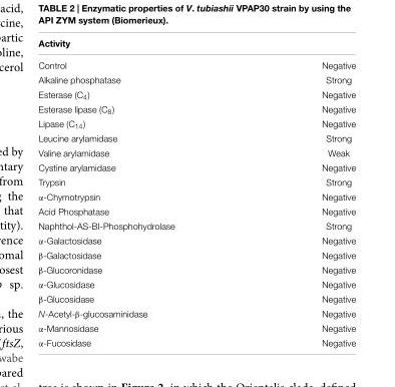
<table><thead><tr><td>Activity</td><td></td></tr></thead><tbody><tr><td>Control</td><td>Negative</td></tr><tr><td>Alkaline phosphatase</td><td>Strong</td></tr><tr><td>Esterase (C4)</td><td>Negative</td></tr><tr><td>Esterase lipase (C8)</td><td>Negative</td></tr><tr><td>Lipase (C14)</td><td>Negative</td></tr><tr><td>Leucine arylamidase</td><td>Strong</td></tr><tr><td>Valine arylamidase</td><td>Weak</td></tr><tr><td>Cystine arylamidase</td><td>Negative</td></tr><tr><td>Trypsin</td><td>Strong</td></tr><tr><td>α-Chymotrypsin</td><td>Negative</td></tr><tr><td>Acid Phosphatase</td><td>Negative</td></tr><tr><td>Naphthol-AS-BI-Phosphohydrolase</td><td>Strong</td></tr><tr><td>α-Galactosidase</td><td>Negative</td></tr><tr><td>β-Galactosidase</td><td>Negative</td></tr><tr><td>β-Glucoronidase</td><td>Negative</td></tr><tr><td>α-Glucosidase</td><td>Negative</td></tr><tr><td>β-Glucosidase</td><td>Negative</td></tr><tr><td>N-Acetyl-β-glucosaminidase</td><td>Negative</td></tr><tr><td>α-Mannosidase</td><td>Negative</td></tr><tr><td>α-Fucosidase</td><td>Negative</td></tr></tbody></table>